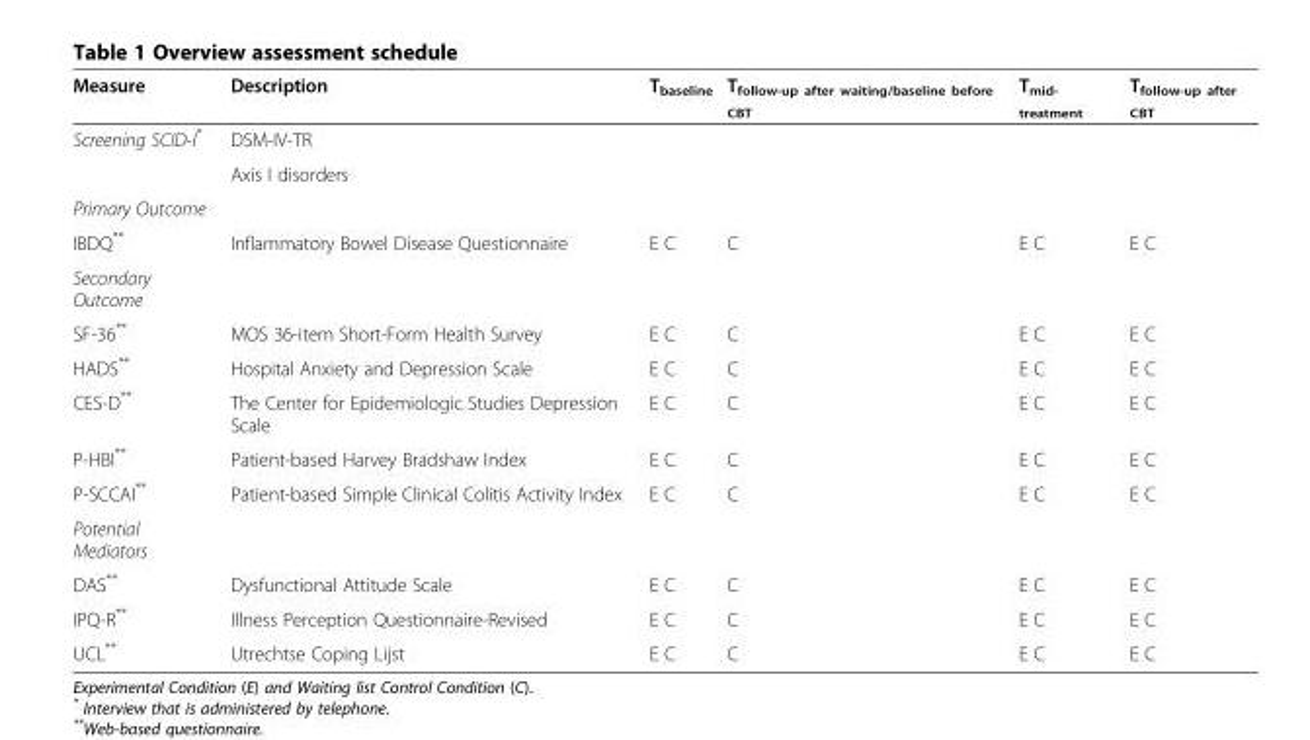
<table><thead><tr><td>Measure</td><td>Description</td><td>T<sub>baseline</sub></td><td>T<sub>follow-up after waiting/baseline before CBT</sub></td><td>T<sub>mid- treatment</sub></td><td>T<sub>follow-up after CBT</sub></td></tr></thead><tbody><tr><td rowspan="2">Screening SCID-I*</td><td>DSM-IV-TR</td><td rowspan="2"></td><td rowspan="2"></td><td rowspan="2"></td><td rowspan="2"></td></tr><tr><td>Axis I disorders</td></tr><tr><td colspan="6">Primary Outcome</td></tr><tr><td>IBDQ**</td><td>Inflammatory Bowel Disease Questionnaire</td><td>E C</td><td>C</td><td>E C</td><td>E C</td></tr><tr><td colspan="6">Secondary Outcome</td></tr><tr><td>SF-36**</td><td>MOS 36-item Short-Form Health Survey</td><td>E C</td><td>C</td><td>E C</td><td>E C</td></tr><tr><td>HADS**</td><td>Hospital Anxiety and Depression Scale</td><td>E C</td><td>C</td><td>E C</td><td>E C</td></tr><tr><td>CES-D**</td><td>The Center for Epidemiologic Studies Depression Scale</td><td>E C</td><td>C</td><td>E C</td><td>E C</td></tr><tr><td>P-HBI**</td><td>Patient-based Harvey Bradshaw Index</td><td>E C</td><td>C</td><td>E C</td><td>E C</td></tr><tr><td>P-SCCAI**</td><td>Patient-based Simple Clinical Colitis Activity Index</td><td>E C</td><td>C</td><td>E C</td><td>E C</td></tr><tr><td colspan="6">Potential Mediators</td></tr><tr><td>DAS**</td><td>Dysfunctional Attitude Scale</td><td>E C</td><td>C</td><td>E C</td><td>E C</td></tr><tr><td>IPQ-R**</td><td>Illness Perception Questionnaire-Revised</td><td>E C</td><td>C</td><td>E C</td><td>E C</td></tr><tr><td>UCL**</td><td>Utrechtse Coping Lijst</td><td>E C</td><td>C</td><td>E C</td><td>E C</td></tr></tbody></table>